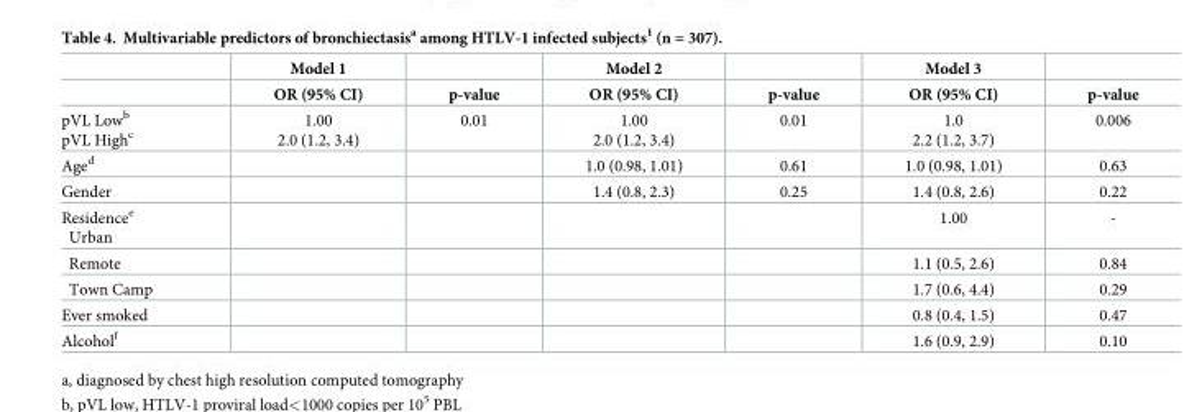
<table><thead><tr><td rowspan="2"></td><td rowspan="2">Model 1 OR (95% CI)</td><td rowspan="2">p-value</td><td rowspan="2">Model 2 OR (95% CI)</td><td rowspan="2">p-value</td><td rowspan="2">Model 3 OR (95% CI)</td><td rowspan="2">p-value</td></tr><tr></tr></thead><tbody><tr><td>pVL Low<sup>b</sup> pVL High<sup>c</sup></td><td>1.00 2.0 (1.2, 3.4)</td><td>0.01</td><td>1.00 2.0 (1.2, 3.4)</td><td>0.01</td><td>1.0 2.2 (1.2, 3.7)</td><td>0.006</td></tr><tr><td>Age<sup>d</sup></td><td></td><td></td><td>1.0 (0.98, 1.01)</td><td>0.61</td><td>1.0 (0.98, 1.01)</td><td>0.63</td></tr><tr><td>Gender</td><td></td><td></td><td>1.4 (0.8, 2.3)</td><td>0.25</td><td>1.4 (0.8, 2.6)</td><td>0.22</td></tr><tr><td>Residence<sup>e</sup> Urban</td><td></td><td></td><td></td><td></td><td>1.00</td><td>-</td></tr><tr><td>Remote</td><td></td><td></td><td></td><td></td><td>1.1 (0.5, 2.6)</td><td>0.84</td></tr><tr><td>Town Camp</td><td></td><td></td><td></td><td></td><td>1.7 (0.6, 4.4)</td><td>0.29</td></tr><tr><td>Ever smoked</td><td></td><td></td><td></td><td></td><td>0.8 (0.4, 1.5)</td><td>0.47</td></tr><tr><td>Alcohol<sup>f</sup></td><td></td><td></td><td></td><td></td><td>1.6 (0.9, 2.9)</td><td>0.10</td></tr></tbody></table>